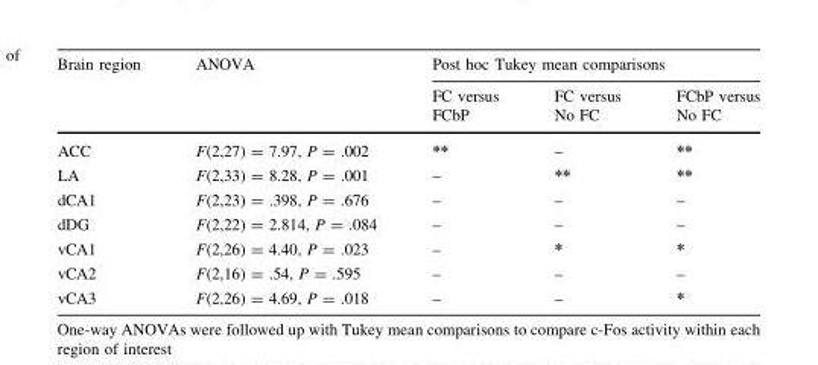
<table><thead><tr><td rowspan="2">Brain region</td><td rowspan="2">ANOVA</td><td colspan="3">Post hoc Tukey mean comparisons</td></tr><tr><td>FC versus FCbP</td><td>FC versus No FC</td><td>FCbP versus No FC</td></tr></thead><tbody><tr><td>ACC</td><td>F(2,27) = 7.97, P = .002</td><td>**</td><td>–</td><td>**</td></tr><tr><td>LA</td><td>F(2,33) = 8.28, P = .001</td><td>–</td><td>**</td><td>**</td></tr><tr><td>dCA1</td><td>F(2,23) = .398, P = .676</td><td>–</td><td>–</td><td>–</td></tr><tr><td>dDG</td><td>F(2,22) = 2.814, P = .084</td><td>–</td><td>–</td><td>–</td></tr><tr><td>vCA1</td><td>F(2,26) = 4.40, P = .023</td><td>–</td><td>*</td><td>*</td></tr><tr><td>vCA2</td><td>F(2,16) = .54, P = .595</td><td>–</td><td>–</td><td>–</td></tr><tr><td>vCA3</td><td>F(2,26) = 4.69, P = .018</td><td>–</td><td>–</td><td>*</td></tr></tbody></table>